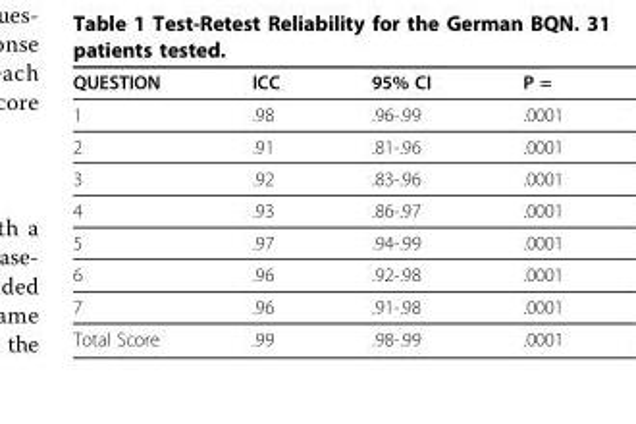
<table><thead><tr><td>QUESTION</td><td>ICC</td><td>95% CI</td><td>P =</td></tr></thead><tbody><tr><td>1</td><td>.98</td><td>.96-.99</td><td>.0001</td></tr><tr><td>2</td><td>.91</td><td>.81-.96</td><td>.0001</td></tr><tr><td>3</td><td>.92</td><td>.83-.96</td><td>.0001</td></tr><tr><td>4</td><td>.93</td><td>.86-.97</td><td>.0001</td></tr><tr><td>5</td><td>.97</td><td>.94-.99</td><td>.0001</td></tr><tr><td>6</td><td>.96</td><td>.92-.98</td><td>.0001</td></tr><tr><td>7</td><td>.96</td><td>.91-.98</td><td>.0001</td></tr><tr><td>Total Score</td><td>.99</td><td>.98-.99</td><td>.0001</td></tr></tbody></table>